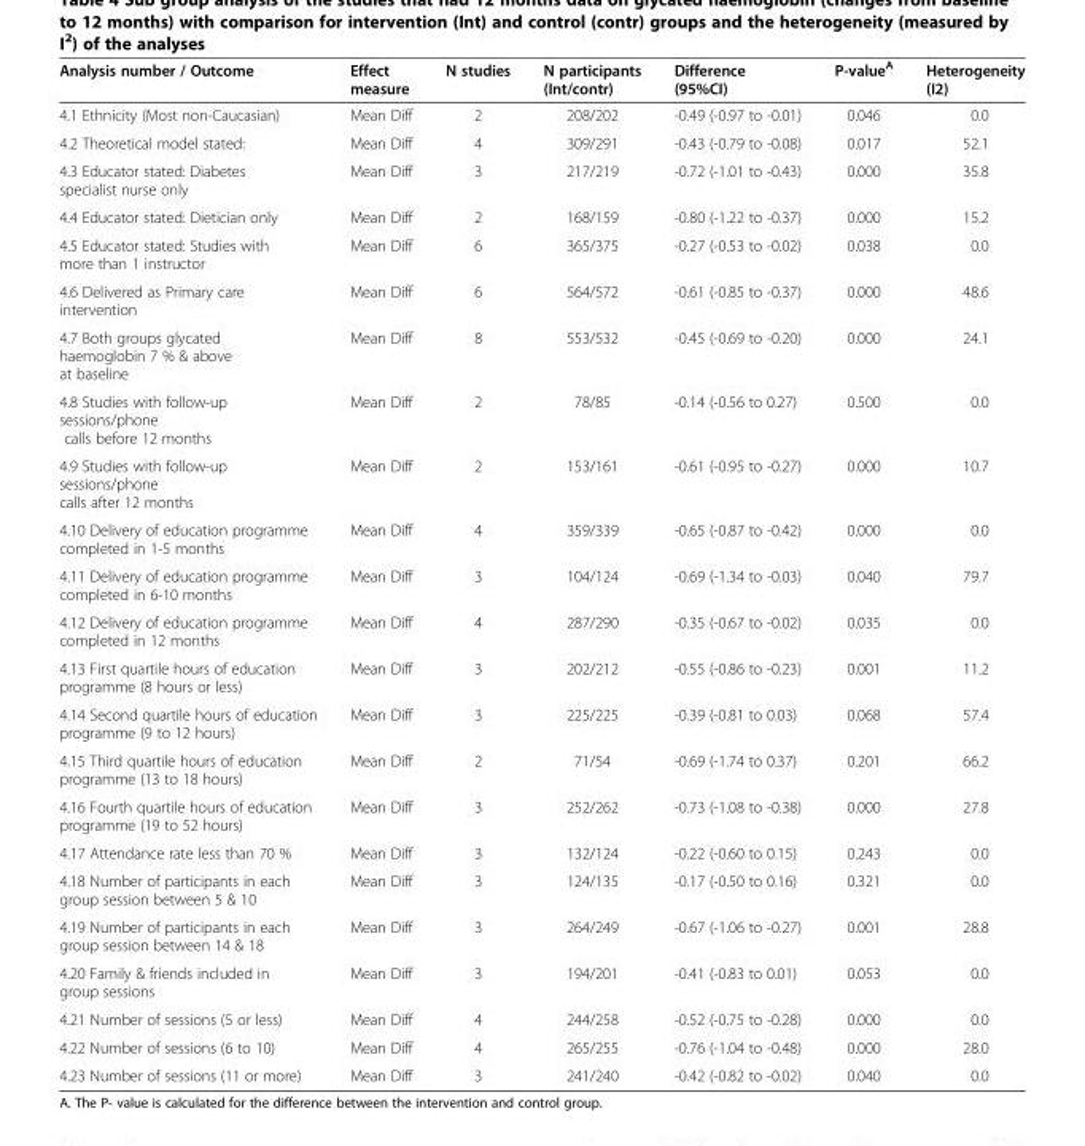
<table><thead><tr><td>Analysis number / Outcome</td><td>Effect measure</td><td>N studies</td><td>N participants (Int/contr)</td><td>Difference (95%CI)</td><td>P-value<sup>A</sup></td><td>Heterogeneity (I2)</td></tr></thead><tbody><tr><td>4.1 Ethnicity (Most non-Caucasian)</td><td>Mean Diff</td><td>2</td><td>208/202</td><td>-0.49 (-0.97 to -0.01)</td><td>0.046</td><td>0.0</td></tr><tr><td>4.2 Theoretical model stated:</td><td>Mean Diff</td><td>4</td><td>309/291</td><td>-0.43 (-0.79 to -0.08)</td><td>0.017</td><td>52.1</td></tr><tr><td>4.3 Educator stated: Diabetes specialist nurse only</td><td>Mean Diff</td><td>3</td><td>217/219</td><td>-0.72 (-1.01 to -0.43)</td><td>0.000</td><td>35.8</td></tr><tr><td>4.4 Educator stated: Dietician only</td><td>Mean Diff</td><td>2</td><td>168/159</td><td>-0.80 (-1.22 to -0.37)</td><td>0.000</td><td>15.2</td></tr><tr><td>4.5 Educator stated: Studies with more than 1 instructor</td><td>Mean Diff</td><td>6</td><td>365/375</td><td>-0.27 (-0.53 to -0.02)</td><td>0.038</td><td>0.0</td></tr><tr><td>4.6 Delivered as Primary care intervention</td><td>Mean Diff</td><td>6</td><td>564/572</td><td>-0.61 (-0.85 to -0.37)</td><td>0.000</td><td>48.6</td></tr><tr><td>4.7 Both groups glycated haemoglobin 7 % &amp; above at baseline</td><td>Mean Diff</td><td>8</td><td>553/532</td><td>-0.45 (-0.69 to -0.20)</td><td>0.000</td><td>24.1</td></tr><tr><td>4.8 Studies with follow-up sessions/phone calls before 12 months</td><td>Mean Diff</td><td>2</td><td>78/85</td><td>-0.14 (-0.56 to 0.27)</td><td>0.500</td><td>0.0</td></tr><tr><td>4.9 Studies with follow-up sessions/phone calls after 12 months</td><td>Mean Diff</td><td>2</td><td>153/161</td><td>-0.61 (-0.95 to -0.27)</td><td>0.000</td><td>10.7</td></tr><tr><td>4.10 Delivery of education programme completed in 1-5 months</td><td>Mean Diff</td><td>4</td><td>359/339</td><td>-0.65 (-0.87 to -0.42)</td><td>0.000</td><td>0.0</td></tr><tr><td>4.11 Delivery of education programme completed in 6-10 months</td><td>Mean Diff</td><td>3</td><td>104/124</td><td>-0.69 (-1.34 to -0.03)</td><td>0.040</td><td>79.7</td></tr><tr><td>4.12 Delivery of education programme completed in 12 months</td><td>Mean Diff</td><td>4</td><td>287/290</td><td>-0.35 (-0.67 to -0.02)</td><td>0.035</td><td>0.0</td></tr><tr><td>4.13 First quartile hours of education programme (8 hours or less)</td><td>Mean Diff</td><td>3</td><td>202/212</td><td>-0.55 (-0.86 to -0.23)</td><td>0.001</td><td>11.2</td></tr><tr><td>4.14 Second quartile hours of education programme (9 to 12 hours)</td><td>Mean Diff</td><td>3</td><td>225/225</td><td>-0.39 (-0.81 to 0.03)</td><td>0.068</td><td>57.4</td></tr><tr><td>4.15 Third quartile hours of education programme (13 to 18 hours)</td><td>Mean Diff</td><td>2</td><td>71/54</td><td>-0.69 (-1.74 to 0.37)</td><td>0.201</td><td>66.2</td></tr><tr><td>4.16 Fourth quartile hours of education programme (19 to 52 hours)</td><td>Mean Diff</td><td>3</td><td>252/262</td><td>-0.73 (-1.08 to -0.38)</td><td>0.000</td><td>27.8</td></tr><tr><td>4.17 Attendance rate less than 70 %</td><td>Mean Diff</td><td>3</td><td>132/124</td><td>-0.22 (-0.60 to 0.15)</td><td>0.243</td><td>0.0</td></tr><tr><td>4.18 Number of participants in each group session between 5 &amp; 10</td><td>Mean Diff</td><td>3</td><td>124/135</td><td>-0.17 (-0.50 to 0.16)</td><td>0.321</td><td>0.0</td></tr><tr><td>4.19 Number of participants in each group session between 14 &amp; 18</td><td>Mean Diff</td><td>3</td><td>264/249</td><td>-0.67 (-1.06 to -0.27)</td><td>0.001</td><td>28.8</td></tr><tr><td>4.20 Family &amp; friends included in group sessions</td><td>Mean Diff</td><td>3</td><td>194/201</td><td>-0.41 (-0.83 to 0.01)</td><td>0.053</td><td>0.0</td></tr><tr><td>4.21 Number of sessions (5 or less)</td><td>Mean Diff</td><td>4</td><td>244/258</td><td>-0.52 (-0.75 to -0.28)</td><td>0.000</td><td>0.0</td></tr><tr><td>4.22 Number of sessions (6 to 10)</td><td>Mean Diff</td><td>4</td><td>265/255</td><td>-0.76 (-1.04 to -0.48)</td><td>0.000</td><td>28.0</td></tr><tr><td>4.23 Number of sessions (11 or more)</td><td>Mean Diff</td><td>3</td><td>241/240</td><td>-0.42 (-0.82 to -0.02)</td><td>0.040</td><td>0.0</td></tr></tbody></table>